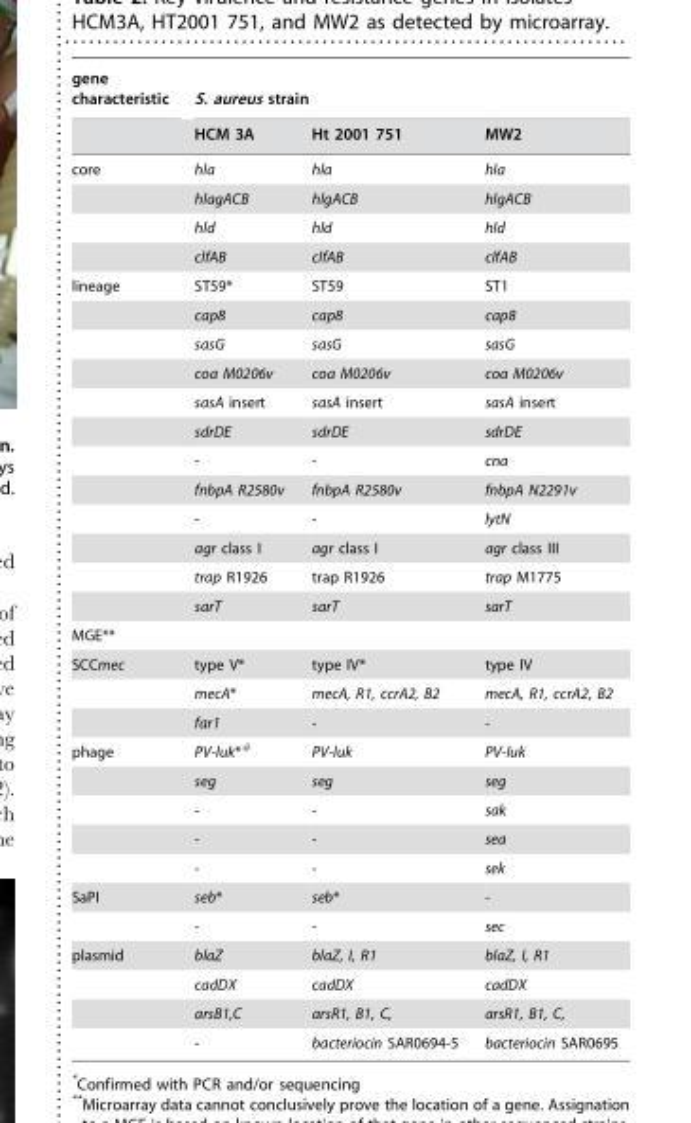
<table><thead><tr><td rowspan="2">gene characteristic</td><td colspan="3">S. aureus strain</td></tr><tr><td>HCM 3A</td><td>Ht 2001 751</td><td>MW2</td></tr></thead><tbody><tr><td rowspan="4">core</td><td>hla</td><td>hla</td><td>hla</td></tr><tr><td>hlagACB</td><td>hlgACB</td><td>hlgACB</td></tr><tr><td>hld</td><td>hld</td><td>hld</td></tr><tr><td>clfAB</td><td>clfAB</td><td>clfAB</td></tr><tr><td rowspan="12">lineage</td><td>ST59*</td><td>ST59</td><td>ST1</td></tr><tr><td>cap8</td><td>cap8</td><td>cap8</td></tr><tr><td>sasG</td><td>sasG</td><td>sasG</td></tr><tr><td>coa M0206v</td><td>coa M0206v</td><td>coa M0206v</td></tr><tr><td>sasA insert</td><td>sasA insert</td><td>sasA insert</td></tr><tr><td>sdrDE</td><td>sdrDE</td><td>sdrDE</td></tr><tr><td>-</td><td>-</td><td>cna</td></tr><tr><td>fnbpA R2580v</td><td>fnbpA R2580v</td><td>fnbpA N2291v</td></tr><tr><td>-</td><td>-</td><td>lytN</td></tr><tr><td>agr class I</td><td>agr class I</td><td>agr class III</td></tr><tr><td>trap R1926</td><td>trap R1926</td><td>trap M1775</td></tr><tr><td>sarT</td><td>sarT</td><td>sarT</td></tr><tr><td colspan="4">MGE**</td></tr><tr><td rowspan="3">SCCmec</td><td>type V*</td><td>type IV*</td><td>type IV</td></tr><tr><td>mecA*</td><td>mecA, R1, ccrA2, B2</td><td>mecA, R1, ccrA2, B2</td></tr><tr><td>far1</td><td>-</td><td>-</td></tr><tr><td rowspan="5">phage</td><td>PV-luk*<sup>#</sup></td><td>PV-luk</td><td>PV-luk</td></tr><tr><td>seg</td><td>seg</td><td>seg</td></tr><tr><td>-</td><td>-</td><td>sak</td></tr><tr><td>-</td><td>-</td><td>sea</td></tr><tr><td>-</td><td>-</td><td>sek</td></tr><tr><td rowspan="2">SaPI</td><td>seb*</td><td>seb*</td><td>-</td></tr><tr><td>-</td><td>-</td><td>sec</td></tr><tr><td rowspan="4">plasmid</td><td>blaZ</td><td>blaZ, I, R1</td><td>blaZ, I, R1</td></tr><tr><td>cadDX</td><td>cadDX</td><td>cadDX</td></tr><tr><td>arsB1,C</td><td>arsR1, B1, C,</td><td>arsR1, B1, C,</td></tr><tr><td>-</td><td>bacteriocin SAR0694-5</td><td>bacteriocin SAR0695</td></tr></tbody></table>